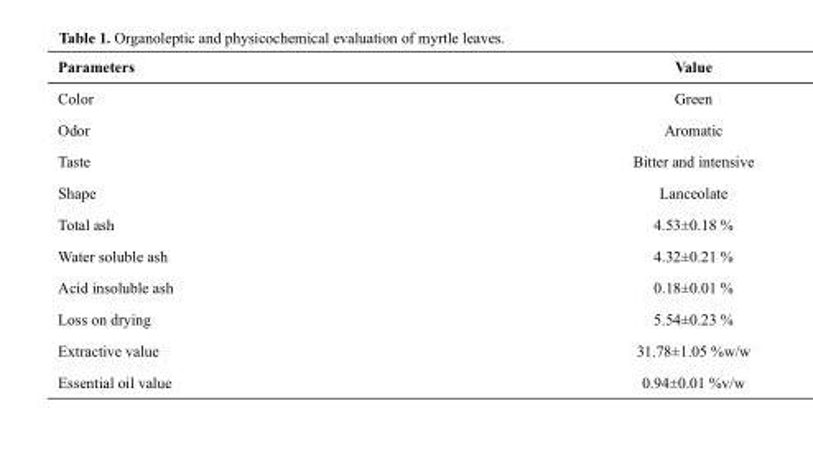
<table><thead><tr><td>Parameters</td><td>Value</td></tr></thead><tbody><tr><td>Color</td><td>Green</td></tr><tr><td>Odor</td><td>Aromatic</td></tr><tr><td>Taste</td><td>Bitter and intensive</td></tr><tr><td>Shape</td><td>Lanceolate</td></tr><tr><td>Total ash</td><td>4.53±0.18 %</td></tr><tr><td>Water soluble ash</td><td>4.32±0.21 %</td></tr><tr><td>Acid insoluble ash</td><td>0.18±0.01 %</td></tr><tr><td>Loss on drying</td><td>5.54±0.23 %</td></tr><tr><td>Extractive value</td><td>31.78±1.05 %w/w</td></tr><tr><td>Essential oil value</td><td>0.94±0.01 %v/w</td></tr></tbody></table>